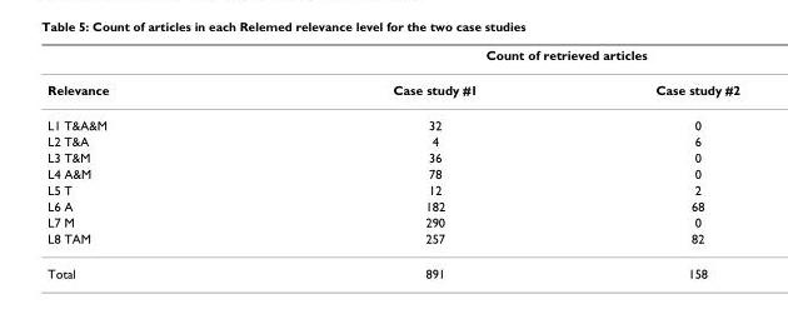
<table><thead><tr><td rowspan="2">Relevance</td><td colspan="2">Count of retrieved articles</td></tr><tr><td>Case study #1</td><td>Case study #2</td></tr></thead><tbody><tr><td>L1 T&amp;A&amp;M</td><td>32</td><td>0</td></tr><tr><td>L2 T&amp;A</td><td>4</td><td>6</td></tr><tr><td>L3 T&amp;M</td><td>36</td><td>0</td></tr><tr><td>L4 A&amp;M</td><td>78</td><td>0</td></tr><tr><td>L5 T</td><td>12</td><td>2</td></tr><tr><td>L6 A</td><td>182</td><td>68</td></tr><tr><td>L7 M</td><td>290</td><td>0</td></tr><tr><td>L8 TAM</td><td>257</td><td>82</td></tr><tr><td>Total</td><td>891</td><td>158</td></tr></tbody></table>